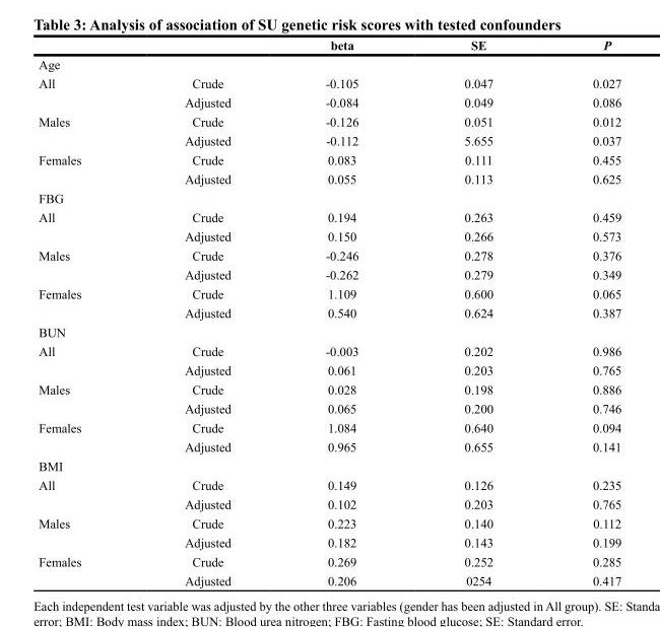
<table><thead><tr><td></td><td></td><td>beta</td><td>SE</td><td>P</td></tr></thead><tbody><tr><td colspan="5">Age</td></tr><tr><td rowspan="2">All</td><td>Crude</td><td>-0.105</td><td>0.047</td><td>0.027</td></tr><tr><td>Adjusted</td><td>-0.084</td><td>0.049</td><td>0.086</td></tr><tr><td rowspan="2">Males</td><td>Crude</td><td>-0.126</td><td>0.051</td><td>0.012</td></tr><tr><td>Adjusted</td><td>-0.112</td><td>5.655</td><td>0.037</td></tr><tr><td rowspan="2">Females</td><td>Crude</td><td>0.083</td><td>0.111</td><td>0.455</td></tr><tr><td>Adjusted</td><td>0.055</td><td>0.113</td><td>0.625</td></tr><tr><td colspan="5">FBG</td></tr><tr><td rowspan="2">All</td><td>Crude</td><td>0.194</td><td>0.263</td><td>0.459</td></tr><tr><td>Adjusted</td><td>0.150</td><td>0.266</td><td>0.573</td></tr><tr><td rowspan="2">Males</td><td>Crude</td><td>-0.246</td><td>0.278</td><td>0.376</td></tr><tr><td>Adjusted</td><td>-0.262</td><td>0.279</td><td>0.349</td></tr><tr><td rowspan="2">Females</td><td>Crude</td><td>1.109</td><td>0.600</td><td>0.065</td></tr><tr><td>Adjusted</td><td>0.540</td><td>0.624</td><td>0.387</td></tr><tr><td colspan="5">BUN</td></tr><tr><td rowspan="2">All</td><td>Crude</td><td>-0.003</td><td>0.202</td><td>0.986</td></tr><tr><td>Adjusted</td><td>0.061</td><td>0.203</td><td>0.765</td></tr><tr><td rowspan="2">Males</td><td>Crude</td><td>0.028</td><td>0.198</td><td>0.886</td></tr><tr><td>Adjusted</td><td>0.065</td><td>0.200</td><td>0.746</td></tr><tr><td rowspan="2">Females</td><td>Crude</td><td>1.084</td><td>0.640</td><td>0.094</td></tr><tr><td>Adjusted</td><td>0.965</td><td>0.655</td><td>0.141</td></tr><tr><td colspan="5">BMI</td></tr><tr><td rowspan="2">All</td><td>Crude</td><td>0.149</td><td>0.126</td><td>0.235</td></tr><tr><td>Adjusted</td><td>0.102</td><td>0.203</td><td>0.765</td></tr><tr><td rowspan="2">Males</td><td>Crude</td><td>0.223</td><td>0.140</td><td>0.112</td></tr><tr><td>Adjusted</td><td>0.182</td><td>0.143</td><td>0.199</td></tr><tr><td rowspan="2">Females</td><td>Crude</td><td>0.269</td><td>0.252</td><td>0.285</td></tr><tr><td>Adjusted</td><td>0.206</td><td>0254</td><td>0.417</td></tr></tbody></table>